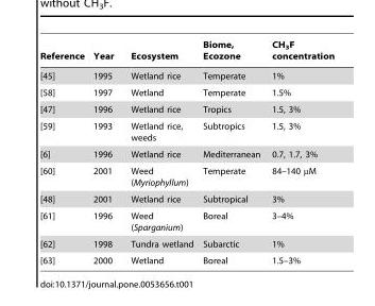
<table><thead><tr><td>Reference</td><td>Year</td><td>Ecosystem</td><td>Biome, Ecozone</td><td>CH<sub>3</sub>F concentration</td></tr></thead><tbody><tr><td>[45]</td><td>1995</td><td>Wetland rice</td><td>Temperate</td><td>1%</td></tr><tr><td>[58]</td><td>1997</td><td>Wetland</td><td>Temperate</td><td>1.5%</td></tr><tr><td>[47]</td><td>1996</td><td>Wetland rice</td><td>Tropics</td><td>1.5, 3%</td></tr><tr><td>[59]</td><td>1993</td><td>Wetland rice, weeds</td><td>Subtropics</td><td>1.5, 3%</td></tr><tr><td>[6]</td><td>1996</td><td>Wetland rice</td><td>Mediterranean</td><td>0.7, 1.7, 3%</td></tr><tr><td>[60]</td><td>2001</td><td>Weed (Myriophyllum)</td><td>Temperate</td><td>84–140 µM</td></tr><tr><td>[48]</td><td>2001</td><td>Wetland rice</td><td>Subtropical</td><td>3%</td></tr><tr><td>[61]</td><td>1996</td><td>Weed (Sparganium)</td><td>Boreal</td><td>3–4%</td></tr><tr><td>[62]</td><td>1998</td><td>Tundra wetland</td><td>Subarctic</td><td>1%</td></tr><tr><td>[63]</td><td>2000</td><td>Wetland</td><td>Boreal</td><td>1.5–3%</td></tr></tbody></table>